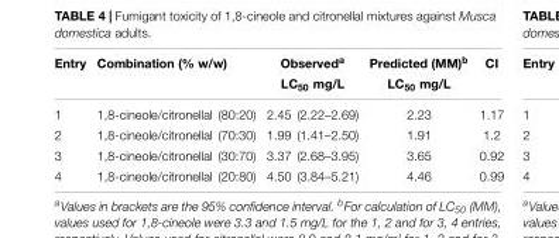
<table><thead><tr><td>Entry</td><td>Combination (% w/w)</td><td>Observed<sup>a</sup> LC<sub>50</sub> mg/L</td><td>Predicted (MM)<sup>b</sup> LC<sub>50</sub> mg/L</td><td>CI</td></tr></thead><tbody><tr><td>1</td><td>1,8-cineole/citronellal (80:20)</td><td>2.45 (2.22–2.69)</td><td>2.23</td><td>1.17</td></tr><tr><td>2</td><td>1,8-cineole/citronellal (70:30)</td><td>1.99 (1.41–2.50)</td><td>1.91</td><td>1.2</td></tr><tr><td>3</td><td>1,8-cineole/citronellal (30:70)</td><td>3.37 (2.68–3.95)</td><td>3.65</td><td>0.92</td></tr><tr><td>4</td><td>1,8-cineole/citronellal (20:80)</td><td>4.50 (3.84–5.21)</td><td>4.46</td><td>0.99</td></tr></tbody></table>